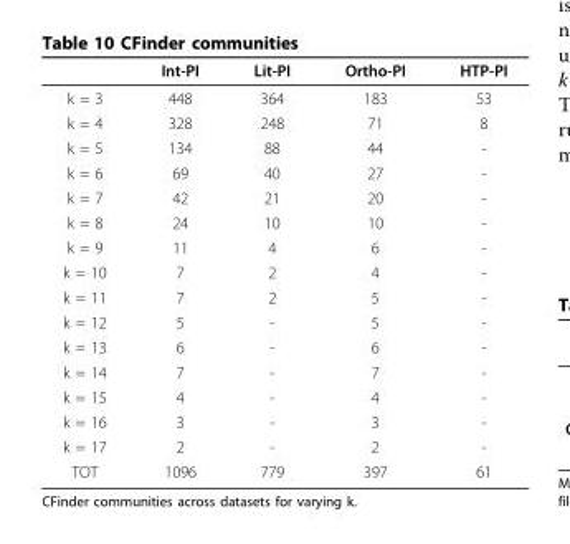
<table><thead><tr><td></td><td>Int-PI</td><td>Lit-PI</td><td>Ortho-PI</td><td>HTP-PI</td></tr></thead><tbody><tr><td>k = 3</td><td>448</td><td>364</td><td>183</td><td>53</td></tr><tr><td>k = 4</td><td>328</td><td>248</td><td>71</td><td>8</td></tr><tr><td>k = 5</td><td>134</td><td>88</td><td>44</td><td>-</td></tr><tr><td>k = 6</td><td>69</td><td>40</td><td>27</td><td>-</td></tr><tr><td>k = 7</td><td>42</td><td>21</td><td>20</td><td>-</td></tr><tr><td>k = 8</td><td>24</td><td>10</td><td>10</td><td>-</td></tr><tr><td>k = 9</td><td>11</td><td>4</td><td>6</td><td>-</td></tr><tr><td>k = 10</td><td>7</td><td>2</td><td>4</td><td>-</td></tr><tr><td>k = 11</td><td>7</td><td>2</td><td>5</td><td>-</td></tr><tr><td>k = 12</td><td>5</td><td>-</td><td>5</td><td>-</td></tr><tr><td>k = 13</td><td>6</td><td>-</td><td>6</td><td>-</td></tr><tr><td>k = 14</td><td>7</td><td>-</td><td>7</td><td>-</td></tr><tr><td>k = 15</td><td>4</td><td>-</td><td>4</td><td>-</td></tr><tr><td>k = 16</td><td>3</td><td>-</td><td>3</td><td>-</td></tr><tr><td>k = 17</td><td>2</td><td>-</td><td>2</td><td>-</td></tr><tr><td>TOT</td><td>1096</td><td>779</td><td>397</td><td>61</td></tr></tbody></table>